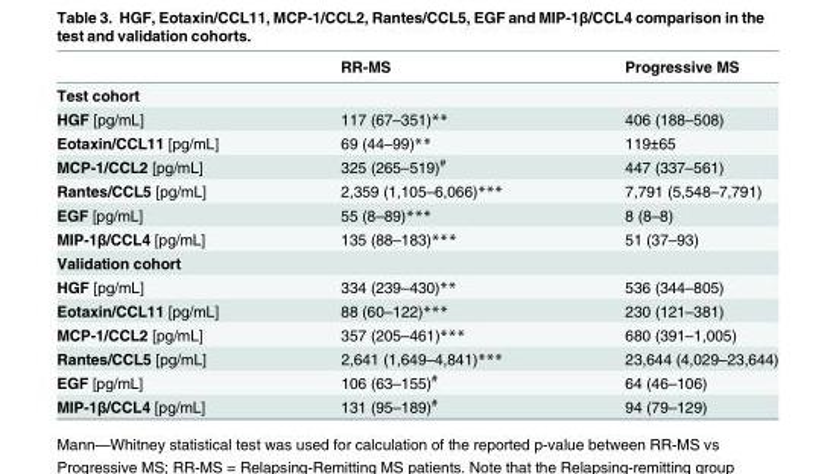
<table><thead><tr><td></td><td>RR-MS</td><td>Progressive MS</td></tr></thead><tbody><tr><td colspan="3">Test cohort</td></tr><tr><td>HGF [pg/mL]</td><td>117 (67–351)**</td><td>406 (188–508)</td></tr><tr><td>Eotaxin/CCL11 [pg/mL]</td><td>69 (44–99)**</td><td>119±65</td></tr><tr><td>MCP-1/CCL2 [pg/mL]</td><td>325 (265–519)<sup>#</sup></td><td>447 (337–561)</td></tr><tr><td>Rantes/CCL5 [pg/mL]</td><td>2,359 (1,105–6,066)***</td><td>7,791 (5,548–7,791)</td></tr><tr><td>EGF [pg/mL]</td><td>55 (8–89)***</td><td>8 (8–8)</td></tr><tr><td>MIP-1β/CCL4 [pg/mL]</td><td>135 (88–183)***</td><td>51 (37–93)</td></tr><tr><td colspan="3">Validation cohort</td></tr><tr><td>HGF [pg/mL]</td><td>334 (239–430)**</td><td>536 (344–805)</td></tr><tr><td>Eotaxin/CCL11 [pg/mL]</td><td>88 (60–122)***</td><td>230 (121–381)</td></tr><tr><td>MCP-1/CCL2 [pg/mL]</td><td>357 (205–461)***</td><td>680 (391–1,005)</td></tr><tr><td>Rantes/CCL5 [pg/mL]</td><td>2,641 (1,649–4,841)***</td><td>23,644 (4,029–23,644)</td></tr><tr><td>EGF [pg/mL]</td><td>106 (63–155)<sup>#</sup></td><td>64 (46–106)</td></tr><tr><td>MIP-1β/CCL4 [pg/mL]</td><td>131 (95–189)<sup>#</sup></td><td>94 (79–129)</td></tr></tbody></table>